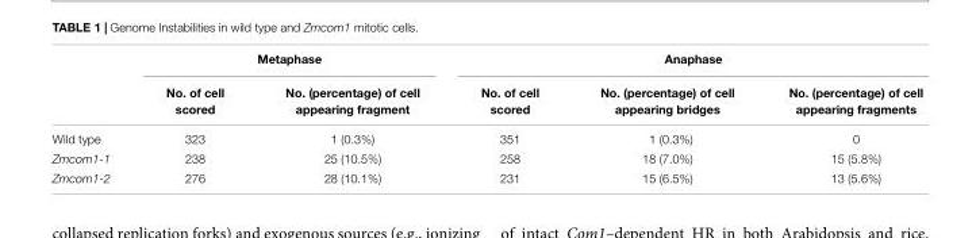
<table><thead><tr><td rowspan="2"></td><td colspan="2">Metaphase</td><td colspan="3">Anaphase</td></tr><tr><td>No. of cell scored</td><td>No. (percentage) of cell appearing fragment</td><td>No. of cell scored</td><td>No. (percentage) of cell appearing bridges</td><td>No. (percentage) of cell appearing fragments</td></tr></thead><tbody><tr><td>Wild type</td><td>323</td><td>1 (0.3%)</td><td>351</td><td>1 (0.3%)</td><td>0</td></tr><tr><td>Zmcom1-1</td><td>238</td><td>25 (10.5%)</td><td>258</td><td>18 (7.0%)</td><td>15 (5.8%)</td></tr><tr><td>Zmcom1-2</td><td>276</td><td>28 (10.1%)</td><td>231</td><td>15 (6.5%)</td><td>13 (5.6%)</td></tr></tbody></table>